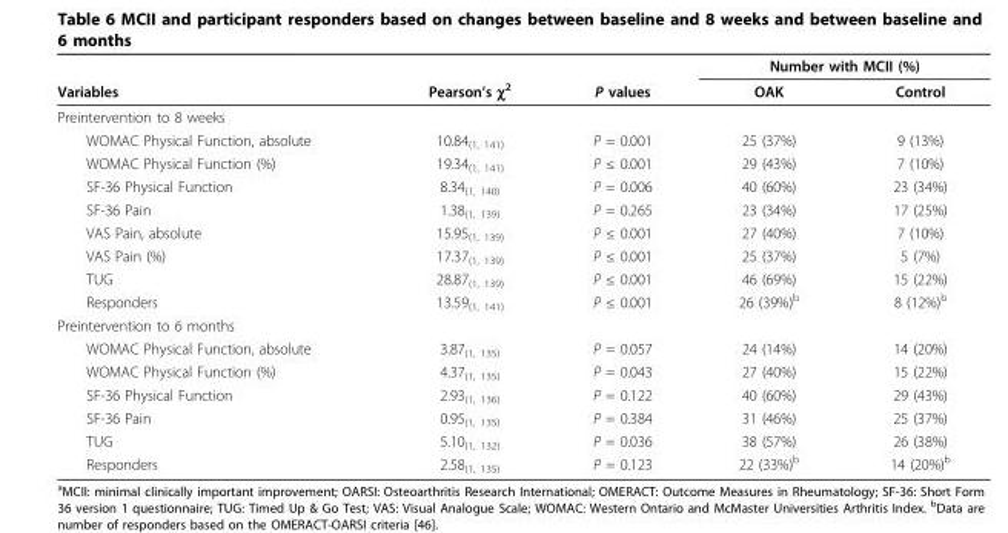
<table><thead><tr><td rowspan="2">Variables</td><td rowspan="2">Pearson’s χ<sup>2</sup></td><td rowspan="2">P values</td><td colspan="2">Number with MCII (%)</td></tr><tr><td>OAK</td><td>Control</td></tr></thead><tbody><tr><td colspan="5">Preintervention to 8 weeks</td></tr><tr><td>WOMAC Physical Function, absolute</td><td>10.84<sub>(1, 141)</sub></td><td>P = 0.001</td><td>25 (37%)</td><td>9 (13%)</td></tr><tr><td>WOMAC Physical Function (%)</td><td>19.34<sub>(1, 141)</sub></td><td>P ≤ 0.001</td><td>29 (43%)</td><td>7 (10%)</td></tr><tr><td>SF-36 Physical Function</td><td>8.34<sub>(1, 140)</sub></td><td>P = 0.006</td><td>40 (60%)</td><td>23 (34%)</td></tr><tr><td>SF-36 Pain</td><td>1.38<sub>(1, 139)</sub></td><td>P = 0.265</td><td>23 (34%)</td><td>17 (25%)</td></tr><tr><td>VAS Pain, absolute</td><td>15.95<sub>(1, 139)</sub></td><td>P ≤ 0.001</td><td>27 (40%)</td><td>7 (10%)</td></tr><tr><td>VAS Pain (%)</td><td>17.37<sub>(1, 139)</sub></td><td>P ≤ 0.001</td><td>25 (37%)</td><td>5 (7%)</td></tr><tr><td>TUG</td><td>28.87<sub>(1, 139)</sub></td><td>P ≤ 0.001</td><td>46 (69%)</td><td>15 (22%)</td></tr><tr><td>Responders</td><td>13.59<sub>(1, 141)</sub></td><td>P ≤ 0.001</td><td>26 (39%)<sup>b</sup></td><td>8 (12%)<sup>b</sup></td></tr><tr><td colspan="5">Preintervention to 6 months</td></tr><tr><td>WOMAC Physical Function, absolute</td><td>3.87<sub>(1, 135)</sub></td><td>P = 0.057</td><td>24 (14%)</td><td>14 (20%)</td></tr><tr><td>WOMAC Physical Function (%)</td><td>4.37<sub>(1, 135)</sub></td><td>P = 0.043</td><td>27 (40%)</td><td>15 (22%)</td></tr><tr><td>SF-36 Physical Function</td><td>2.93<sub>(1, 136)</sub></td><td>P = 0.122</td><td>40 (60%)</td><td>29 (43%)</td></tr><tr><td>SF-36 Pain</td><td>0.95<sub>(1, 135)</sub></td><td>P = 0.384</td><td>31 (46%)</td><td>25 (37%)</td></tr><tr><td>TUG</td><td>5.10<sub>(1, 132)</sub></td><td>P = 0.036</td><td>38 (57%)</td><td>26 (38%)</td></tr><tr><td>Responders</td><td>2.58<sub>(1, 135)</sub></td><td>P = 0.123</td><td>22 (33%)<sup>b</sup></td><td>14 (20%)<sup>b</sup></td></tr></tbody></table>